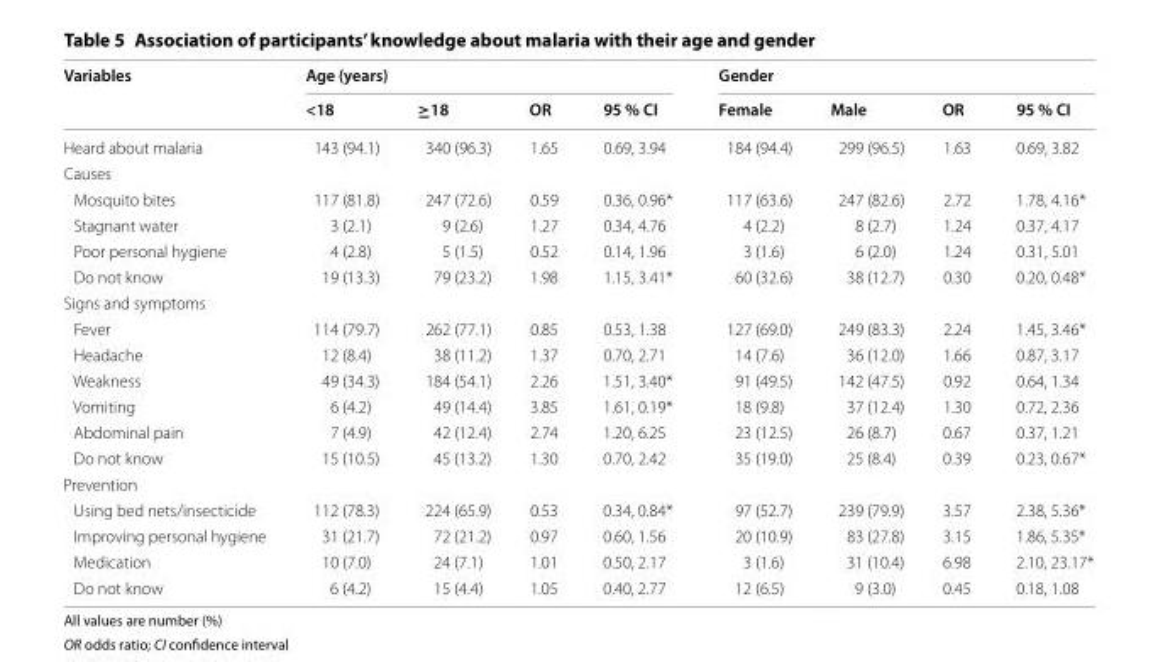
<table><thead><tr><td rowspan="2">Variables</td><td colspan="4">Age (years)</td><td colspan="4">Gender</td></tr><tr><td>&lt;18</td><td>≥18</td><td>OR</td><td>95 % CI</td><td>Female</td><td>Male</td><td>OR</td><td>95 % CI</td></tr></thead><tbody><tr><td>Heard about malaria</td><td>143 (94.1)</td><td>340 (96.3)</td><td>1.65</td><td>0.69, 3.94</td><td>184 (94.4)</td><td>299 (96.5)</td><td>1.63</td><td>0.69, 3.82</td></tr><tr><td colspan="9">Causes</td></tr><tr><td>Mosquito bites</td><td>117 (81.8)</td><td>247 (72.6)</td><td>0.59</td><td>0.36, 0.96*</td><td>117 (63.6)</td><td>247 (82.6)</td><td>2.72</td><td>1.78, 4.16*</td></tr><tr><td>Stagnant water</td><td>3 (2.1)</td><td>9 (2.6)</td><td>1.27</td><td>0.34, 4.76</td><td>4 (2.2)</td><td>8 (2.7)</td><td>1.24</td><td>0.37, 4.17</td></tr><tr><td>Poor personal hygiene</td><td>4 (2.8)</td><td>5 (1.5)</td><td>0.52</td><td>0.14, 1.96</td><td>3 (1.6)</td><td>6 (2.0)</td><td>1.24</td><td>0.31, 5.01</td></tr><tr><td>Do not know</td><td>19 (13.3)</td><td>79 (23.2)</td><td>1.98</td><td>1.15, 3.41*</td><td>60 (32.6)</td><td>38 (12.7)</td><td>0.30</td><td>0.20, 0.48*</td></tr><tr><td colspan="9">Signs and symptoms</td></tr><tr><td>Fever</td><td>114 (79.7)</td><td>262 (77.1)</td><td>0.85</td><td>0.53, 1.38</td><td>127 (69.0)</td><td>249 (83.3)</td><td>2.24</td><td>1.45, 3.46*</td></tr><tr><td>Headache</td><td>12 (8.4)</td><td>38 (11.2)</td><td>1.37</td><td>0.70, 2.71</td><td>14 (7.6)</td><td>36 (12.0)</td><td>1.66</td><td>0.87, 3.17</td></tr><tr><td>Weakness</td><td>49 (34.3)</td><td>184 (54.1)</td><td>2.26</td><td>1.51, 3.40*</td><td>91 (49.5)</td><td>142 (47.5)</td><td>0.92</td><td>0.64, 1.34</td></tr><tr><td>Vomiting</td><td>6 (4.2)</td><td>49 (14.4)</td><td>3.85</td><td>1.61, 0.19*</td><td>18 (9.8)</td><td>37 (12.4)</td><td>1.30</td><td>0.72, 2.36</td></tr><tr><td>Abdominal pain</td><td>7 (4.9)</td><td>42 (12.4)</td><td>2.74</td><td>1.20, 6.25</td><td>23 (12.5)</td><td>26 (8.7)</td><td>0.67</td><td>0.37, 1.21</td></tr><tr><td>Do not know</td><td>15 (10.5)</td><td>45 (13.2)</td><td>1.30</td><td>0.70, 2.42</td><td>35 (19.0)</td><td>25 (8.4)</td><td>0.39</td><td>0.23, 0.67*</td></tr><tr><td colspan="9">Prevention</td></tr><tr><td>Using bed nets/insecticide</td><td>112 (78.3)</td><td>224 (65.9)</td><td>0.53</td><td>0.34, 0.84*</td><td>97 (52.7)</td><td>239 (79.9)</td><td>3.57</td><td>2.38, 5.36*</td></tr><tr><td>Improving personal hygiene</td><td>31 (21.7)</td><td>72 (21.2)</td><td>0.97</td><td>0.60, 1.56</td><td>20 (10.9)</td><td>83 (27.8)</td><td>3.15</td><td>1.86, 5.35*</td></tr><tr><td>Medication</td><td>10 (7.0)</td><td>24 (7.1)</td><td>1.01</td><td>0.50, 2.17</td><td>3 (1.6)</td><td>31 (10.4)</td><td>6.98</td><td>2.10, 23.17*</td></tr><tr><td>Do not know</td><td>6 (4.2)</td><td>15 (4.4)</td><td>1.05</td><td>0.40, 2.77</td><td>12 (6.5)</td><td>9 (3.0)</td><td>0.45</td><td>0.18, 1.08</td></tr></tbody></table>